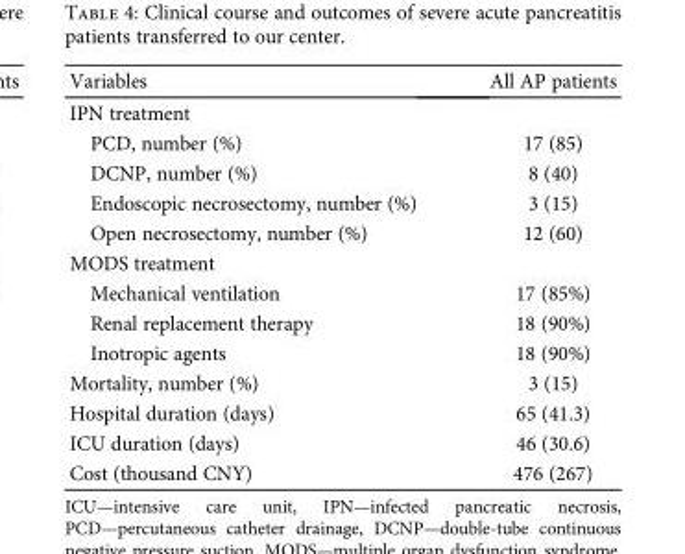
<table><thead><tr><td>Variables</td><td>All AP patients</td></tr></thead><tbody><tr><td colspan="2">IPN treatment</td></tr><tr><td>PCD, number (%)</td><td>17 (85)</td></tr><tr><td>DCNP, number (%)</td><td>8 (40)</td></tr><tr><td>Endoscopic necrosectomy, number (%)</td><td>3 (15)</td></tr><tr><td>Open necrosectomy, number (%)</td><td>12 (60)</td></tr><tr><td colspan="2">MODS treatment</td></tr><tr><td>Mechanical ventilation</td><td>17 (85%)</td></tr><tr><td>Renal replacement therapy</td><td>18 (90%)</td></tr><tr><td>Inotropic agents</td><td>18 (90%)</td></tr><tr><td>Mortality, number (%)</td><td>3 (15)</td></tr><tr><td>Hospital duration (days)</td><td>65 (41.3)</td></tr><tr><td>ICU duration (days)</td><td>46 (30.6)</td></tr><tr><td>Cost (thousand CNY)</td><td>476 (267)</td></tr></tbody></table>